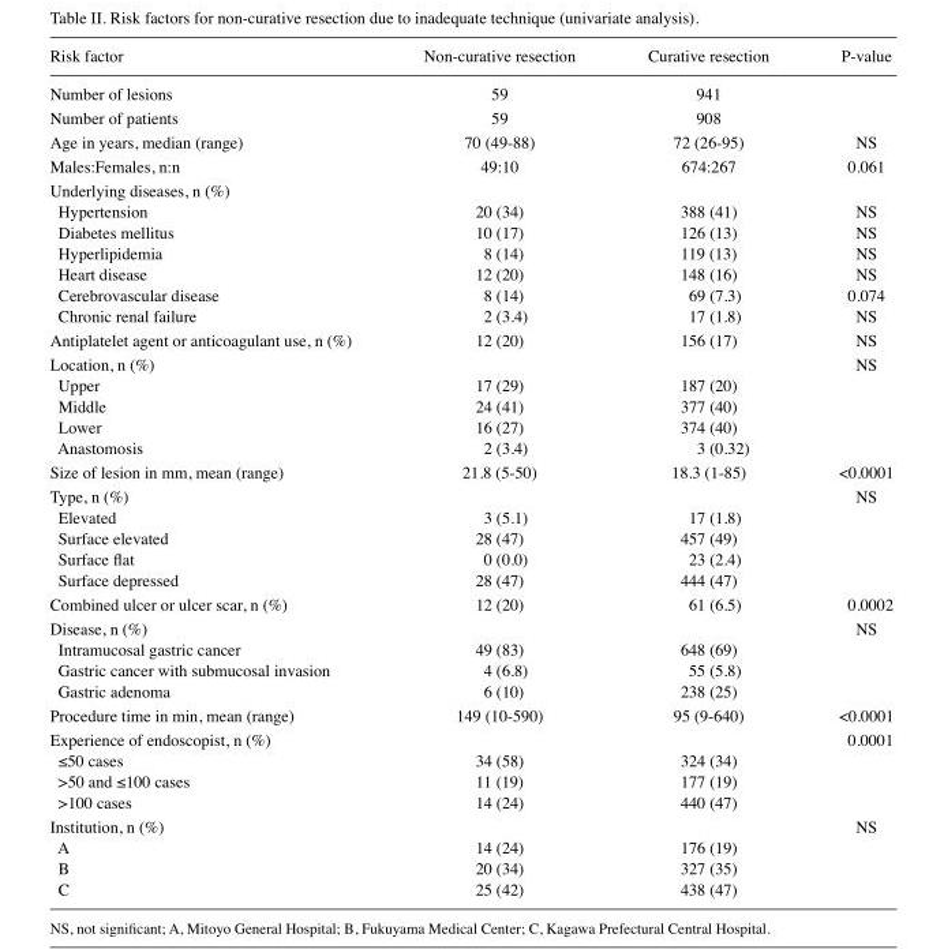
<table><thead><tr><td>Risk factor</td><td>Non-curative resection</td><td>Curative resection</td><td>P-value</td></tr></thead><tbody><tr><td>Number of lesions</td><td>59</td><td>941</td><td></td></tr><tr><td>Number of patients</td><td>59</td><td>908</td><td></td></tr><tr><td>Age in years, median (range)</td><td>70 (49-88)</td><td>72 (26-95)</td><td>NS</td></tr><tr><td>Males:Females, n:n</td><td>49:10</td><td>674:267</td><td>0.061</td></tr><tr><td colspan="4">Underlying diseases, n (%)</td></tr><tr><td>Hypertension</td><td>20 (34)</td><td>388 (41)</td><td>NS</td></tr><tr><td>Diabetes mellitus</td><td>10 (17)</td><td>126 (13)</td><td>NS</td></tr><tr><td>Hyperlipidemia</td><td>8 (14)</td><td>119 (13)</td><td>NS</td></tr><tr><td>Heart disease</td><td>12 (20)</td><td>148 (16)</td><td>NS</td></tr><tr><td>Cerebrovascular disease</td><td>8 (14)</td><td>69 (7.3)</td><td>0.074</td></tr><tr><td>Chronic renal failure</td><td>2 (3.4)</td><td>17 (1.8)</td><td>NS</td></tr><tr><td>Antiplatelet agent or anticoagulant use, n (%)</td><td>12 (20)</td><td>156 (17)</td><td>NS</td></tr><tr><td>Location, n (%)</td><td></td><td></td><td>NS</td></tr><tr><td>Upper</td><td>17 (29)</td><td>187 (20)</td><td></td></tr><tr><td>Middle</td><td>24 (41)</td><td>377 (40)</td><td></td></tr><tr><td>Lower</td><td>16 (27)</td><td>374 (40)</td><td></td></tr><tr><td>Anastomosis</td><td>2 (3.4)</td><td>3 (0.32)</td><td></td></tr><tr><td>Size of lesion in mm, mean (range)</td><td>21.8 (5-50)</td><td>18.3 (1-85)</td><td>&lt;0.0001</td></tr><tr><td>Type, n (%)</td><td></td><td></td><td>NS</td></tr><tr><td>Elevated</td><td>3 (5.1)</td><td>17 (1.8)</td><td></td></tr><tr><td>Surface elevated</td><td>28 (47)</td><td>457 (49)</td><td></td></tr><tr><td>Surface flat</td><td>0 (0.0)</td><td>23 (2.4)</td><td></td></tr><tr><td>Surface depressed</td><td>28 (47)</td><td>444 (47)</td><td></td></tr><tr><td>Combined ulcer or ulcer scar, n (%)</td><td>12 (20)</td><td>61 (6.5)</td><td>0.0002</td></tr><tr><td>Disease, n (%)</td><td></td><td></td><td>NS</td></tr><tr><td>Intramucosal gastric cancer</td><td>49 (83)</td><td>648 (69)</td><td></td></tr><tr><td>Gastric cancer with submucosal invasion</td><td>4 (6.8)</td><td>55 (5.8)</td><td></td></tr><tr><td>Gastric adenoma</td><td>6 (10)</td><td>238 (25)</td><td></td></tr><tr><td>Procedure time in min, mean (range)</td><td>149 (10-590)</td><td>95 (9-640)</td><td>&lt;0.0001</td></tr><tr><td>Experience of endoscopist, n (%)</td><td></td><td></td><td>0.0001</td></tr><tr><td>≤50 cases</td><td>34 (58)</td><td>324 (34)</td><td></td></tr><tr><td>&gt;50 and ≤100 cases</td><td>11 (19)</td><td>177 (19)</td><td></td></tr><tr><td>&gt;100 cases</td><td>14 (24)</td><td>440 (47)</td><td></td></tr><tr><td>Institution, n (%)</td><td></td><td></td><td>NS</td></tr><tr><td>A</td><td>14 (24)</td><td>176 (19)</td><td></td></tr><tr><td>B</td><td>20 (34)</td><td>327 (35)</td><td></td></tr><tr><td>C</td><td>25 (42)</td><td>438 (47)</td><td></td></tr></tbody></table>